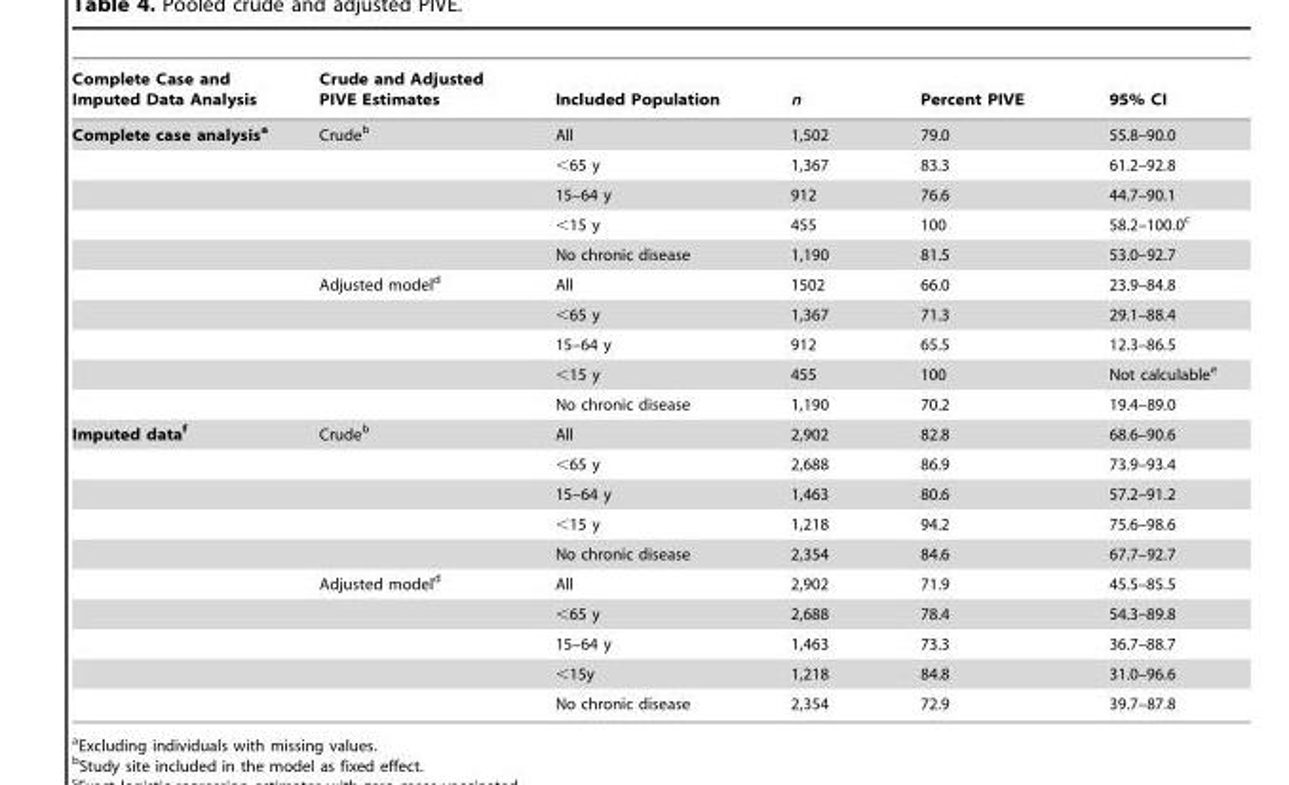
<table><thead><tr><td>Complete Case and Imputed Data Analysis</td><td>Crude and Adjusted PIVE Estimates</td><td>Included Population</td><td>n</td><td>Percent PIVE</td><td>95% CI</td></tr></thead><tbody><tr><td rowspan="10">Complete case analysisa</td><td>Crude<sup>b</sup></td><td>All</td><td>1,502</td><td>79.0</td><td>55.8–90.0</td></tr><tr><td></td><td>&lt;65 y</td><td>1,367</td><td>83.3</td><td>61.2–92.8</td></tr><tr><td></td><td>15–64 y</td><td>912</td><td>76.6</td><td>44.7–90.1</td></tr><tr><td></td><td>&lt;15 y</td><td>455</td><td>100</td><td>58.2–100.0<sup>c</sup></td></tr><tr><td></td><td>No chronic disease</td><td>1,190</td><td>81.5</td><td>53.0–92.7</td></tr><tr><td>Adjusted model<sup>d</sup></td><td>All</td><td>1502</td><td>66.0</td><td>23.9–84.8</td></tr><tr><td></td><td>&lt;65 y</td><td>1,367</td><td>71.3</td><td>29.1–88.4</td></tr><tr><td></td><td>15–64 y</td><td>912</td><td>65.5</td><td>12.3–86.5</td></tr><tr><td></td><td>&lt;15 y</td><td>455</td><td>100</td><td>Not calculable<sup>e</sup></td></tr><tr><td></td><td>No chronic disease</td><td>1,190</td><td>70.2</td><td>19.4–89.0</td></tr><tr><td rowspan="10">Imputed dataf</td><td>Crude<sup>b</sup></td><td>All</td><td>2,902</td><td>82.8</td><td>68.6–90.6</td></tr><tr><td></td><td>&lt;65 y</td><td>2,688</td><td>86.9</td><td>73.9–93.4</td></tr><tr><td></td><td>15–64 y</td><td>1,463</td><td>80.6</td><td>57.2–91.2</td></tr><tr><td></td><td>&lt;15 y</td><td>1,218</td><td>94.2</td><td>75.6–98.6</td></tr><tr><td></td><td>No chronic disease</td><td>2,354</td><td>84.6</td><td>67.7–92.7</td></tr><tr><td>Adjusted model<sup>d</sup></td><td>All</td><td>2,902</td><td>71.9</td><td>45.5–85.5</td></tr><tr><td></td><td>&lt;65 y</td><td>2,688</td><td>78.4</td><td>54.3–89.8</td></tr><tr><td></td><td>15–64 y</td><td>1,463</td><td>73.3</td><td>36.7–88.7</td></tr><tr><td></td><td>&lt;15y</td><td>1,218</td><td>84.8</td><td>31.0–96.6</td></tr><tr><td></td><td>No chronic disease</td><td>2,354</td><td>72.9</td><td>39.7–87.8</td></tr></tbody></table>